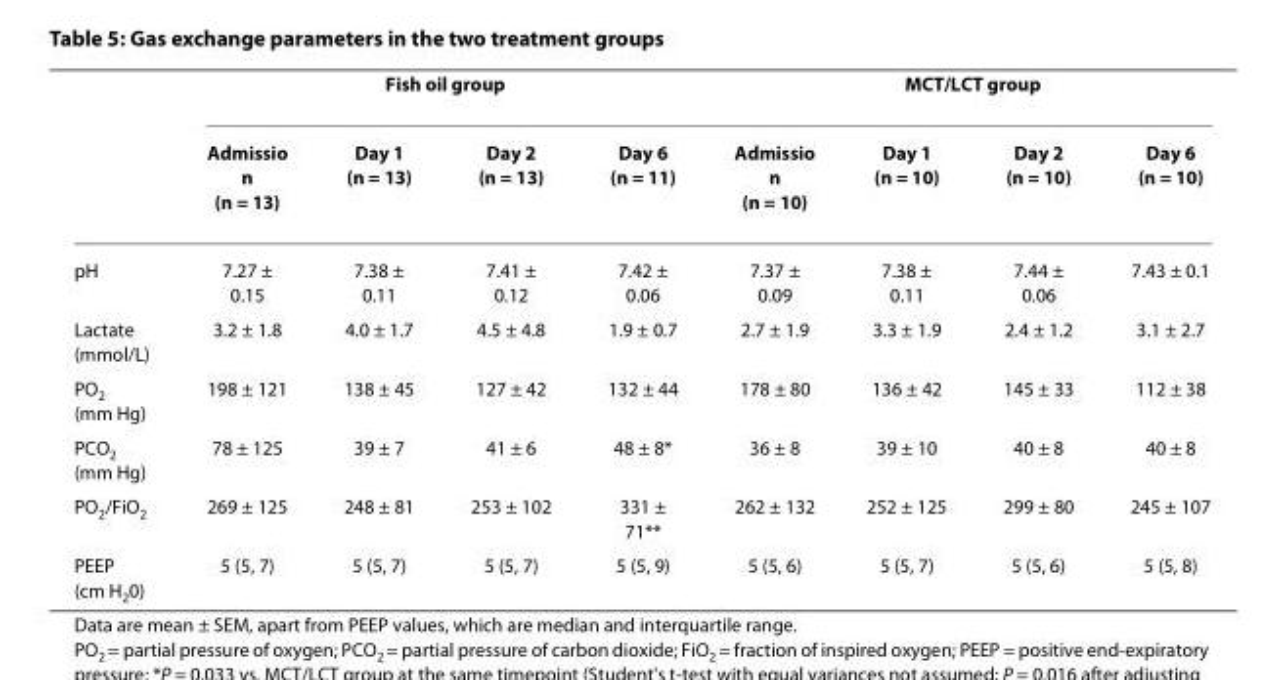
<table><thead><tr><td rowspan="2"></td><td colspan="4">Fish oil group</td><td colspan="4">MCT/LCT group</td></tr><tr><td>Admissio n (n = 13)</td><td>Day 1 (n = 13)</td><td>Day 2 (n = 13)</td><td>Day 6 (n = 11)</td><td>Admissio n (n = 10)</td><td>Day 1 (n = 10)</td><td>Day 2 (n = 10)</td><td>Day 6 (n = 10)</td></tr></thead><tbody><tr><td>pH</td><td>7.27 ± 0.15</td><td>7.38 ± 0.11</td><td>7.41 ± 0.12</td><td>7.42 ± 0.06</td><td>7.37 ± 0.09</td><td>7.38 ± 0.11</td><td>7.44 ± 0.06</td><td>7.43 ± 0.1</td></tr><tr><td>Lactate (mmol/L)</td><td>3.2 ± 1.8</td><td>4.0 ± 1.7</td><td>4.5 ± 4.8</td><td>1.9 ± 0.7</td><td>2.7 ± 1.9</td><td>3.3 ± 1.9</td><td>2.4 ± 1.2</td><td>3.1 ± 2.7</td></tr><tr><td>PO<sub>2</sub> (mm Hg)</td><td>198 ± 121</td><td>138 ± 45</td><td>127 ± 42</td><td>132 ± 44</td><td>178 ± 80</td><td>136 ± 42</td><td>145 ± 33</td><td>112 ± 38</td></tr><tr><td>PCO<sub>2</sub> (mm Hg)</td><td>78 ± 125</td><td>39 ± 7</td><td>41 ± 6</td><td>48 ± 8*</td><td>36 ± 8</td><td>39 ± 10</td><td>40 ± 8</td><td>40 ± 8</td></tr><tr><td>PO<sub>2</sub>/FiO<sub>2</sub></td><td>269 ± 125</td><td>248 ± 81</td><td>253 ± 102</td><td>331 ± 71**</td><td>262 ± 132</td><td>252 ± 125</td><td>299 ± 80</td><td>245 ± 107</td></tr><tr><td>PEEP (cm H<sub>2</sub>0)</td><td>5 (5, 7)</td><td>5 (5, 7)</td><td>5 (5, 7)</td><td>5 (5, 9)</td><td>5 (5, 6)</td><td>5 (5, 7)</td><td>5 (5, 6)</td><td>5 (5, 8)</td></tr></tbody></table>